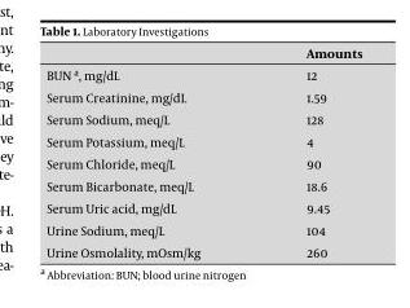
<table><thead><tr><td></td><td>Amounts</td></tr></thead><tbody><tr><td>BUN <sup>a</sup>, mg/dL</td><td>12</td></tr><tr><td>Serum Creatinine, mg/dL</td><td>1.59</td></tr><tr><td>Serum Sodium, meq/L</td><td>128</td></tr><tr><td>Serum Potassium, meq/L</td><td>4</td></tr><tr><td>Serum Chloride, meq/L</td><td>90</td></tr><tr><td>Serum Bicarbonate, meq/L</td><td>18.6</td></tr><tr><td>Serum Uric acid, mg/dL</td><td>9.45</td></tr><tr><td>Urine Sodium, meq/L</td><td>104</td></tr><tr><td>Urine Osmolality, mOsm/kg</td><td>260</td></tr></tbody></table>